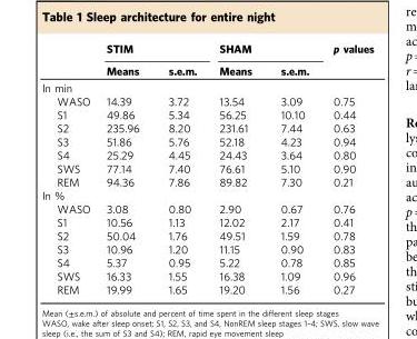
<table><thead><tr><td rowspan="2"></td><td colspan="2">STIM</td><td colspan="2">SHAM</td><td rowspan="2">p values</td></tr><tr><td>Means</td><td>s.e.m.</td><td>Means</td><td>s.e.m.</td></tr></thead><tbody><tr><td colspan="6">In min</td></tr><tr><td>WASO</td><td>14.39</td><td>3.72</td><td>13.54</td><td>3.09</td><td>0.75</td></tr><tr><td>S1</td><td>49.86</td><td>5.34</td><td>56.25</td><td>10.10</td><td>0.44</td></tr><tr><td>S2</td><td>235.96</td><td>8.20</td><td>231.61</td><td>7.44</td><td>0.63</td></tr><tr><td>S3</td><td>51.86</td><td>5.76</td><td>52.18</td><td>4.23</td><td>0.94</td></tr><tr><td>S4</td><td>25.29</td><td>4.45</td><td>24.43</td><td>3.64</td><td>0.80</td></tr><tr><td>SWS</td><td>77.14</td><td>7.40</td><td>76.61</td><td>5.10</td><td>0.90</td></tr><tr><td>REM</td><td>94.36</td><td>7.86</td><td>89.82</td><td>7.30</td><td>0.21</td></tr><tr><td colspan="6">In %</td></tr><tr><td>WASO</td><td>3.08</td><td>0.80</td><td>2.90</td><td>0.67</td><td>0.76</td></tr><tr><td>S1</td><td>10.56</td><td>1.13</td><td>12.02</td><td>2.17</td><td>0.41</td></tr><tr><td>S2</td><td>50.04</td><td>1.76</td><td>49.51</td><td>1.59</td><td>0.78</td></tr><tr><td>S3</td><td>10.96</td><td>1.20</td><td>11.15</td><td>0.90</td><td>0.83</td></tr><tr><td>S4</td><td>5.37</td><td>0.95</td><td>5.22</td><td>0.78</td><td>0.85</td></tr><tr><td>SWS</td><td>16.33</td><td>1.55</td><td>16.38</td><td>1.09</td><td>0.96</td></tr><tr><td>REM</td><td>19.99</td><td>1.65</td><td>19.20</td><td>1.56</td><td>0.27</td></tr></tbody></table>